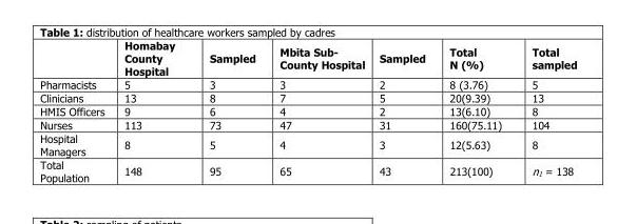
<table><thead><tr><td></td><td>Homabay County Hospital</td><td>Sampled</td><td>Mbita Sub- County Hospital</td><td>Sampled</td><td>Total N (%)</td><td>Total sampled</td></tr></thead><tbody><tr><td>Pharmacists</td><td>5</td><td>3</td><td>3</td><td>2</td><td>8 (3.76)</td><td>5</td></tr><tr><td>Clinicians</td><td>13</td><td>8</td><td>7</td><td>5</td><td>20(9.39)</td><td>13</td></tr><tr><td>HMIS Officers</td><td>9</td><td>6</td><td>4</td><td>2</td><td>13(6.10)</td><td>8</td></tr><tr><td>Nurses</td><td>113</td><td>73</td><td>47</td><td>31</td><td>160(75.11)</td><td>104</td></tr><tr><td>Hospital Managers</td><td>8</td><td>5</td><td>4</td><td>3</td><td>12(5.63)</td><td>8</td></tr><tr><td>Total Population</td><td>148</td><td>95</td><td>65</td><td>43</td><td>213(100)</td><td>n<sub>1</sub> = 138</td></tr></tbody></table>